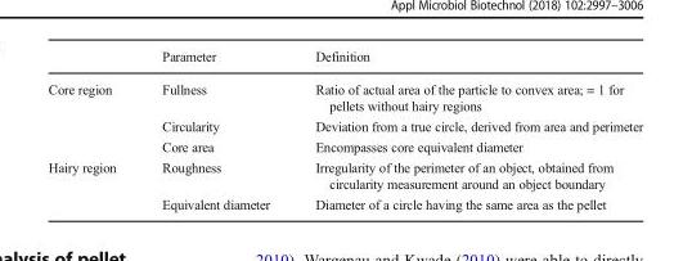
<table><thead><tr><td></td><td>Parameter</td><td>Definition</td></tr></thead><tbody><tr><td rowspan="3">Core region</td><td>Fullness</td><td>Ratio of actual area of the particle to convex area; = 1 for pellets without hairy regions</td></tr><tr><td>Circularity</td><td>Deviation from a true circle, derived from area and perimeter</td></tr><tr><td>Core area</td><td>Encompasses core equivalent diameter</td></tr><tr><td rowspan="2">Hairy region</td><td>Roughness</td><td>Irregularity of the perimeter of an object, obtained from circularity measurement around an object boundary</td></tr><tr><td>Equivalent diameter</td><td>Diameter of a circle having the same area as the pellet</td></tr></tbody></table>